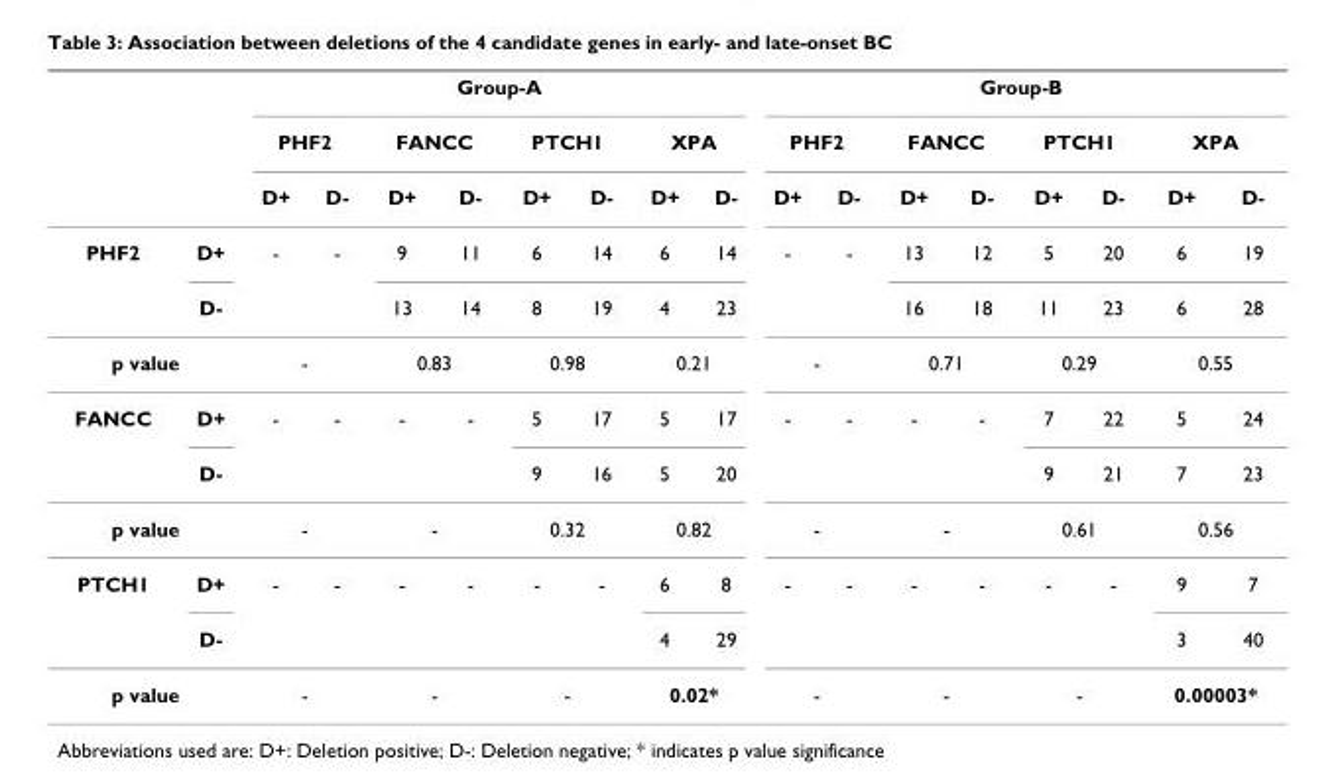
<table><thead><tr><td rowspan="3"></td><td rowspan="3"></td><td colspan="8">Group-A</td><td colspan="8">Group-B</td></tr><tr><td colspan="2">PHF2</td><td colspan="2">FANCC</td><td colspan="2">PTCH1</td><td colspan="2">XPA</td><td colspan="2">PHF2</td><td colspan="2">FANCC</td><td colspan="2">PTCH1</td><td colspan="2">XPA</td></tr><tr><td>D+</td><td>D-</td><td>D+</td><td>D-</td><td>D+</td><td>D-</td><td>D+</td><td>D-</td><td>D+</td><td>D-</td><td>D+</td><td>D-</td><td>D+</td><td>D-</td><td>D+</td><td>D-</td></tr></thead><tbody><tr><td rowspan="2">PHF2</td><td>D+</td><td>-</td><td>-</td><td>9</td><td>11</td><td>6</td><td>14</td><td>6</td><td>14</td><td>-</td><td>-</td><td>13</td><td>12</td><td>5</td><td>20</td><td>6</td><td>19</td></tr><tr><td>D-</td><td></td><td></td><td>13</td><td>14</td><td>8</td><td>19</td><td>4</td><td>23</td><td></td><td></td><td>16</td><td>18</td><td>11</td><td>23</td><td>6</td><td>28</td></tr><tr><td colspan="2">p value</td><td colspan="2">-</td><td colspan="2">0.83</td><td colspan="2">0.98</td><td colspan="2">0.21</td><td colspan="2">-</td><td colspan="2">0.71</td><td colspan="2">0.29</td><td colspan="2">0.55</td></tr><tr><td rowspan="2">FANCC</td><td>D+</td><td>-</td><td>-</td><td>-</td><td>-</td><td>5</td><td>17</td><td>5</td><td>17</td><td>-</td><td>-</td><td>-</td><td>-</td><td>7</td><td>22</td><td>5</td><td>24</td></tr><tr><td>D-</td><td></td><td></td><td></td><td></td><td>9</td><td>16</td><td>5</td><td>20</td><td></td><td></td><td></td><td></td><td>9</td><td>21</td><td>7</td><td>23</td></tr><tr><td colspan="2">p value</td><td colspan="2">-</td><td colspan="2">-</td><td colspan="2">0.32</td><td colspan="2">0.82</td><td colspan="2">-</td><td colspan="2">-</td><td colspan="2">0.61</td><td colspan="2">0.56</td></tr><tr><td rowspan="2">PTCH1</td><td>D+</td><td>-</td><td>-</td><td>-</td><td>-</td><td>-</td><td>-</td><td>6</td><td>8</td><td>-</td><td>-</td><td>-</td><td>-</td><td>-</td><td>-</td><td>9</td><td>7</td></tr><tr><td>D-</td><td></td><td></td><td></td><td></td><td></td><td></td><td>4</td><td>29</td><td></td><td></td><td></td><td></td><td></td><td></td><td>3</td><td>40</td></tr><tr><td colspan="2">p value</td><td colspan="2">-</td><td colspan="2">-</td><td colspan="2">-</td><td colspan="2">0.02*</td><td colspan="2">-</td><td colspan="2">-</td><td colspan="2">-</td><td colspan="2">0.00003*</td></tr></tbody></table>